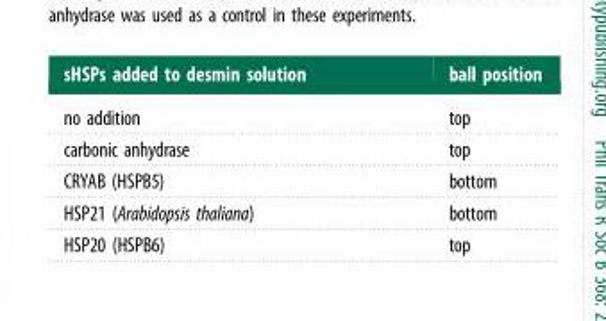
<table><thead><tr><td>sHSPs added to desmin solution</td><td>ball position</td></tr></thead><tbody><tr><td>no addition</td><td>top</td></tr><tr><td>carbonic anhydrase</td><td>top</td></tr><tr><td>CRYAB (HSPB5)</td><td>bottom</td></tr><tr><td>HSP21 (Arabidopsis thaliana)</td><td>bottom</td></tr><tr><td>HSP20 (HSPB6)</td><td>top</td></tr></tbody></table>